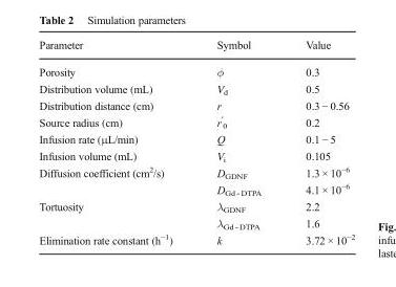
<table><thead><tr><td>Parameter</td><td>Symbol</td><td>Value</td></tr></thead><tbody><tr><td>Porosity</td><td>ϕ</td><td>0.3</td></tr><tr><td>Distribution volume (mL)</td><td>V<sub>d</sub></td><td>0.5</td></tr><tr><td>Distribution distance (cm)</td><td>r</td><td>0.3 − 0.56</td></tr><tr><td>Source radius (cm)</td><td>r<sup>′</sup> <sub>0</sub></td><td>0.2</td></tr><tr><td>Infusion rate (μL/min)</td><td>Q</td><td>0.1 − 5</td></tr><tr><td>Infusion volume (mL)</td><td>V<sub>i</sub></td><td>0.105</td></tr><tr><td rowspan="2">Diffusion coefficient (cm<sup>2</sup>/s)</td><td>D<sub>GDNF</sub></td><td>1.3 × 10<sup>−6</sup></td></tr><tr><td>D<sub>Gd ‐ DTPA</sub></td><td>4.1 × 10<sup>−6</sup></td></tr><tr><td rowspan="2">Tortuosity</td><td>λ<sub>GDNF</sub></td><td>2.2</td></tr><tr><td>λ<sub>Gd ‐ DTPA</sub></td><td>1.6</td></tr><tr><td>Elimination rate constant (h<sup>−1</sup>)</td><td>k</td><td>3.72 × 10<sup>−2</sup></td></tr></tbody></table>